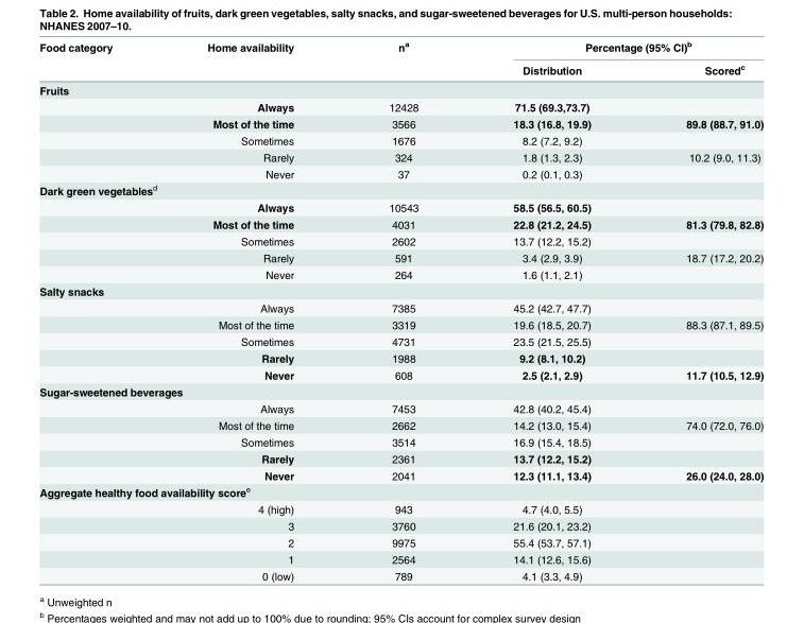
<table><thead><tr><td rowspan="2">Food category</td><td rowspan="2">Home availability</td><td rowspan="2">n<sup>a</sup></td><td colspan="2">Percentage (95% CI)<sup>b</sup></td></tr><tr><td>Distribution</td><td>Scored<sup>c</sup></td></tr></thead><tbody><tr><td colspan="5">Fruits</td></tr><tr><td></td><td>Always</td><td>12428</td><td>71.5 (69.3,73.7)</td><td></td></tr><tr><td></td><td>Most of the time</td><td>3566</td><td>18.3 (16.8, 19.9)</td><td>89.8 (88.7, 91.0)</td></tr><tr><td></td><td>Sometimes</td><td>1676</td><td>8.2 (7.2, 9.2)</td><td></td></tr><tr><td></td><td>Rarely</td><td>324</td><td>1.8 (1.3, 2.3)</td><td>10.2 (9.0, 11.3)</td></tr><tr><td></td><td>Never</td><td>37</td><td>0.2 (0.1, 0.3)</td><td></td></tr><tr><td colspan="5">Dark green vegetables<sup>d</sup></td></tr><tr><td></td><td>Always</td><td>10543</td><td>58.5 (56.5, 60.5)</td><td></td></tr><tr><td></td><td>Most of the time</td><td>4031</td><td>22.8 (21.2, 24.5)</td><td>81.3 (79.8, 82.8)</td></tr><tr><td></td><td>Sometimes</td><td>2602</td><td>13.7 (12.2, 15.2)</td><td></td></tr><tr><td></td><td>Rarely</td><td>591</td><td>3.4 (2.9, 3.9)</td><td>18.7 (17.2, 20.2)</td></tr><tr><td></td><td>Never</td><td>264</td><td>1.6 (1.1, 2.1)</td><td></td></tr><tr><td colspan="5">Salty snacks</td></tr><tr><td></td><td>Always</td><td>7385</td><td>45.2 (42.7, 47.7)</td><td></td></tr><tr><td></td><td>Most of the time</td><td>3319</td><td>19.6 (18.5, 20.7)</td><td>88.3 (87.1, 89.5)</td></tr><tr><td></td><td>Sometimes</td><td>4731</td><td>23.5 (21.5, 25.5)</td><td></td></tr><tr><td></td><td>Rarely</td><td>1988</td><td>9.2 (8.1, 10.2)</td><td></td></tr><tr><td></td><td>Never</td><td>608</td><td>2.5 (2.1, 2.9)</td><td>11.7 (10.5, 12.9)</td></tr><tr><td colspan="5">Sugar-sweetened beverages</td></tr><tr><td></td><td>Always</td><td>7453</td><td>42.8 (40.2, 45.4)</td><td></td></tr><tr><td></td><td>Most of the time</td><td>2662</td><td>14.2 (13.0, 15.4)</td><td>74.0 (72.0, 76.0)</td></tr><tr><td></td><td>Sometimes</td><td>3514</td><td>16.9 (15.4, 18.5)</td><td></td></tr><tr><td></td><td>Rarely</td><td>2361</td><td>13.7 (12.2, 15.2)</td><td></td></tr><tr><td></td><td>Never</td><td>2041</td><td>12.3 (11.1, 13.4)</td><td>26.0 (24.0, 28.0)</td></tr><tr><td colspan="5">Aggregate healthy food availability score<sup>e</sup></td></tr><tr><td></td><td>4 (high)</td><td>943</td><td>4.7 (4.0, 5.5)</td><td></td></tr><tr><td></td><td>3</td><td>3760</td><td>21.6 (20.1, 23.2)</td><td></td></tr><tr><td></td><td>2</td><td>9975</td><td>55.4 (53.7, 57.1)</td><td></td></tr><tr><td></td><td>1</td><td>2564</td><td>14.1 (12.6, 15.6)</td><td></td></tr><tr><td></td><td>0 (low)</td><td>789</td><td>4.1 (3.3, 4.9)</td><td></td></tr></tbody></table>